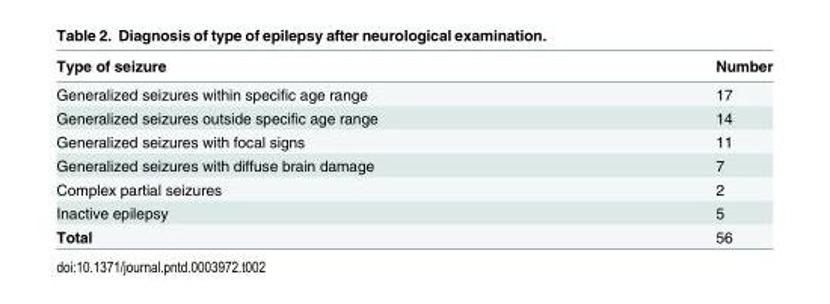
<table><thead><tr><td>Type of seizure</td><td>Number</td></tr></thead><tbody><tr><td>Generalized seizures within specific age range</td><td>17</td></tr><tr><td>Generalized seizures outside specific age range</td><td>14</td></tr><tr><td>Generalized seizures with focal signs</td><td>11</td></tr><tr><td>Generalized seizures with diffuse brain damage</td><td>7</td></tr><tr><td>Complex partial seizures</td><td>2</td></tr><tr><td>Inactive epilepsy</td><td>5</td></tr><tr><td>Total</td><td>56</td></tr></tbody></table>